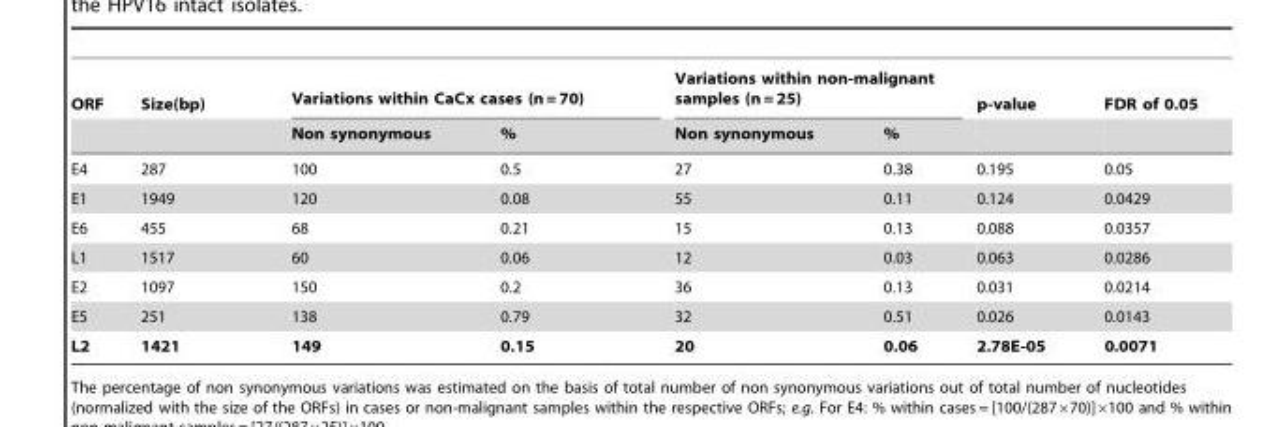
<table><thead><tr><td rowspan="2">ORF</td><td rowspan="2">Size(bp)</td><td colspan="2">Variations within CaCx cases (n = 70)</td><td colspan="2">Variations within non-malignant samples (n = 25)</td><td rowspan="2">p-value</td><td rowspan="2">FDR of 0.05</td></tr><tr><td>Non synonymous</td><td>%</td><td>Non synonymous</td><td>%</td></tr></thead><tbody><tr><td>E4</td><td>287</td><td>100</td><td>0.5</td><td>27</td><td>0.38</td><td>0.195</td><td>0.05</td></tr><tr><td>E1</td><td>1949</td><td>120</td><td>0.08</td><td>55</td><td>0.11</td><td>0.124</td><td>0.0429</td></tr><tr><td>E6</td><td>455</td><td>68</td><td>0.21</td><td>15</td><td>0.13</td><td>0.088</td><td>0.0357</td></tr><tr><td>L1</td><td>1517</td><td>60</td><td>0.06</td><td>12</td><td>0.03</td><td>0.063</td><td>0.0286</td></tr><tr><td>E2</td><td>1097</td><td>150</td><td>0.2</td><td>36</td><td>0.13</td><td>0.031</td><td>0.0214</td></tr><tr><td>E5</td><td>251</td><td>138</td><td>0.79</td><td>32</td><td>0.51</td><td>0.026</td><td>0.0143</td></tr><tr><td>L2</td><td>1421</td><td>149</td><td>0.15</td><td>20</td><td>0.06</td><td>2.78E-05</td><td>0.0071</td></tr></tbody></table>